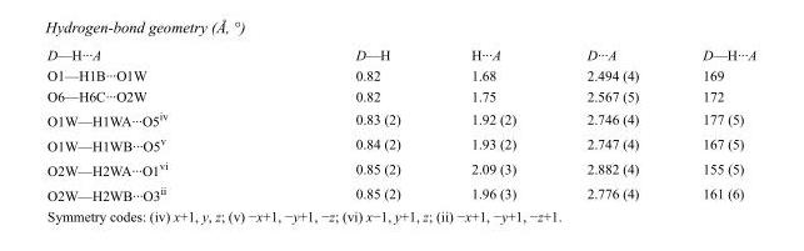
<table><tbody><tr><td>D—H···A</td><td>D—H</td><td>H···A</td><td>D···A</td><td>D—H···A</td></tr><tr><td>O1—H1B···O1W</td><td>0.82</td><td>1.68</td><td>2.494 (4)</td><td>169</td></tr><tr><td>O6—H6C···O2W</td><td>0.82</td><td>1.75</td><td>2.567 (5)</td><td>172</td></tr><tr><td>O1W—H1WA···O5<sup>iv</sup></td><td>0.83 (2)</td><td>1.92 (2)</td><td>2.746 (4)</td><td>177 (5)</td></tr><tr><td>O1W—H1WB···O5<sup>v</sup></td><td>0.84 (2)</td><td>1.93 (2)</td><td>2.747 (4)</td><td>167 (5)</td></tr><tr><td>O2W—H2WA···O1<sup>vi</sup></td><td>0.85 (2)</td><td>2.09 (3)</td><td>2.882 (4)</td><td>155 (5)</td></tr><tr><td>O2W—H2WB···O3<sup>ii</sup></td><td>0.85 (2)</td><td>1.96 (3)</td><td>2.776 (4)</td><td>161 (6)</td></tr></tbody></table>